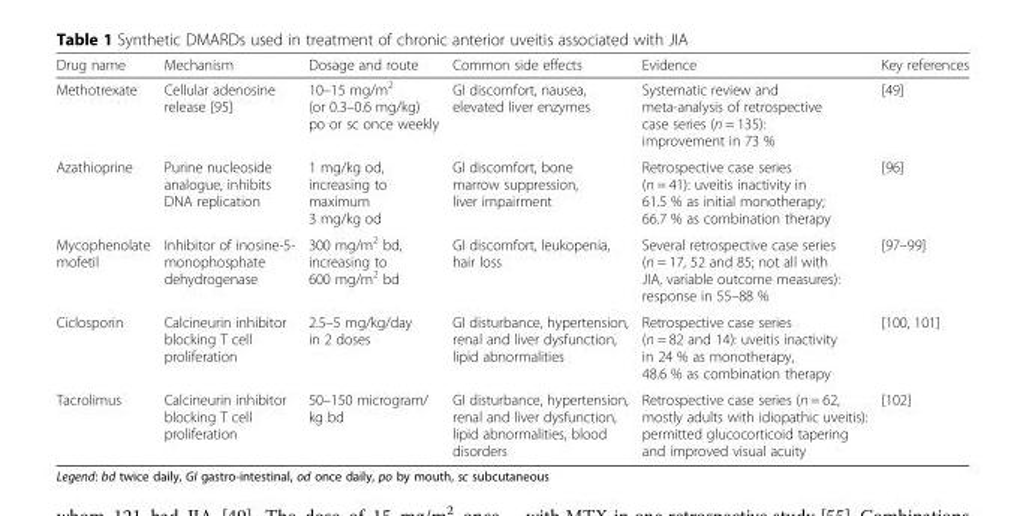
<table><thead><tr><td>Drug name</td><td>Mechanism</td><td>Dosage and route</td><td>Common side effects</td><td>Evidence</td><td>Key references</td></tr></thead><tbody><tr><td>Methotrexate</td><td>Cellular adenosine release [95]</td><td>10–15 mg/m<sup>2</sup> (or 0.3–0.6 mg/kg) po or sc once weekly</td><td>GI discomfort, nausea, elevated liver enzymes</td><td>Systematic review and meta-analysis of retrospective case series (n = 135): improvement in 73 %</td><td>[49]</td></tr><tr><td>Azathioprine</td><td>Purine nucleoside analogue, inhibits DNA replication</td><td>1 mg/kg od, increasing to maximum 3 mg/kg od</td><td>GI discomfort, bone marrow suppression, liver impairment</td><td>Retrospective case series (n = 41): uveitis inactivity in 61.5 % as initial monotherapy; 66.7 % as combination therapy</td><td>[96]</td></tr><tr><td>Mycophenolate mofetil</td><td>Inhibitor of inosine-5- monophosphate dehydrogenase</td><td>300 mg/m<sup>2</sup> bd, increasing to 600 mg/m<sup>2</sup> bd</td><td>GI discomfort, leukopenia, hair loss</td><td>Several retrospective case series (n = 17, 52 and 85; not all with JIA, variable outcome measures): response in 55–88 %</td><td>[97–99]</td></tr><tr><td>Ciclosporin</td><td>Calcineurin inhibitor blocking T cell proliferation</td><td>2.5–5 mg/kg/day in 2 doses</td><td>GI disturbance, hypertension, renal and liver dysfunction, lipid abnormalities</td><td>Retrospective case series (n = 82 and 14): uveitis inactivity in 24 % as monotherapy, 48.6 % as combination therapy</td><td>[100, 101]</td></tr><tr><td>Tacrolimus</td><td>Calcineurin inhibitor blocking T cell proliferation</td><td>50–150 microgram/ kg bd</td><td>GI disturbance, hypertension, renal and liver dysfunction, lipid abnormalities, blood disorders</td><td>Retrospective case series (n = 62, mostly adults with idiopathic uveitis): permitted glucocorticoid tapering and improved visual acuity</td><td>[102]</td></tr></tbody></table>